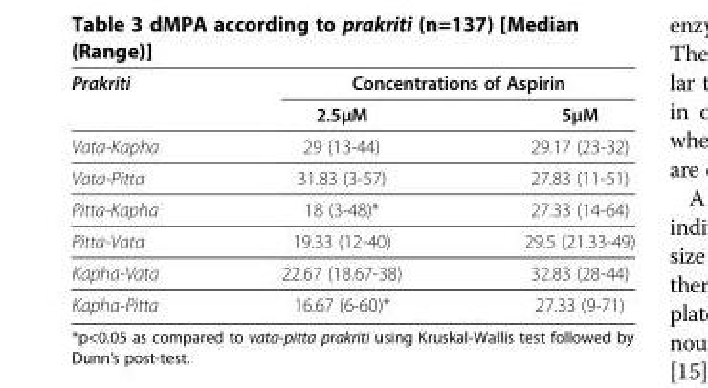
<table><thead><tr><td rowspan="2">Prakriti</td><td colspan="2">Concentrations of Aspirin</td></tr><tr><td>2.5μM</td><td>5μM</td></tr></thead><tbody><tr><td>Vata-Kapha</td><td>29 (13-44)</td><td>29.17 (23-32)</td></tr><tr><td>Vata-Pitta</td><td>31.83 (3-57)</td><td>27.83 (11-51)</td></tr><tr><td>Pitta-Kapha</td><td>18 (3-48)*</td><td>27.33 (14-64)</td></tr><tr><td>Pitta-Vata</td><td>19.33 (12-40)</td><td>29.5 (21.33-49)</td></tr><tr><td>Kapha-Vata</td><td>22.67 (18.67-38)</td><td>32.83 (28-44)</td></tr><tr><td>Kapha-Pitta</td><td>16.67 (6-60)*</td><td>27.33 (9-71)</td></tr></tbody></table>